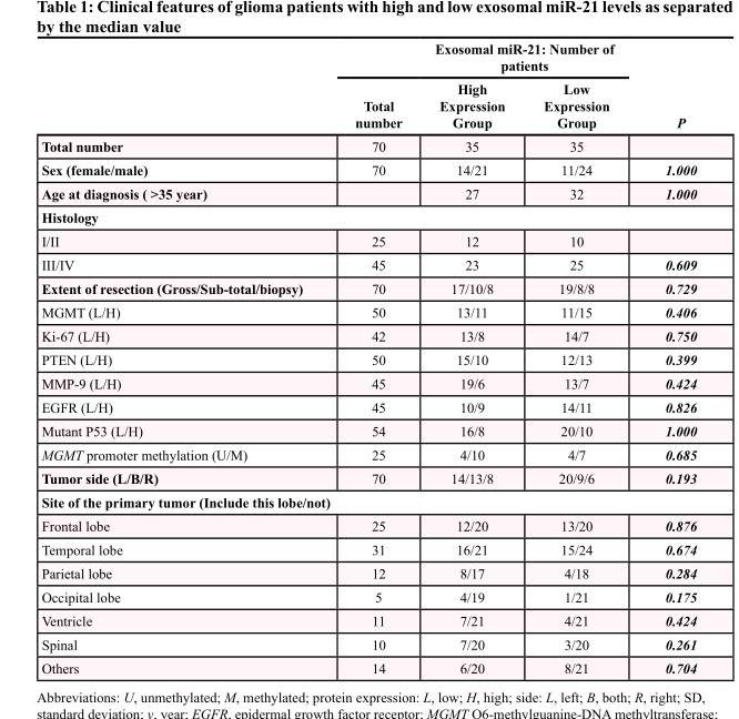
<table><thead><tr><td rowspan="2"></td><td colspan="3">Exosomal miR-21: Number of patients</td><td rowspan="2">P</td></tr><tr><td>Total number</td><td>High Expression Group</td><td>Low Expression Group</td></tr></thead><tbody><tr><td>Total number</td><td>70</td><td>35</td><td>35</td><td></td></tr><tr><td>Sex (female/male)</td><td>70</td><td>14/21</td><td>11/24</td><td>1.000</td></tr><tr><td>Age at diagnosis ( &gt;35 year)</td><td></td><td>27</td><td>32</td><td>1.000</td></tr><tr><td colspan="5">Histology</td></tr><tr><td>I/II</td><td>25</td><td>12</td><td>10</td><td></td></tr><tr><td>III/IV</td><td>45</td><td>23</td><td>25</td><td>0.609</td></tr><tr><td>Extent of resection (Gross/Sub-total/biopsy)</td><td>70</td><td>17/10/8</td><td>19/8/8</td><td>0.729</td></tr><tr><td>MGMT (L/H)</td><td>50</td><td>13/11</td><td>11/15</td><td>0.406</td></tr><tr><td>Ki-67 (L/H)</td><td>42</td><td>13/8</td><td>14/7</td><td>0.750</td></tr><tr><td>PTEN (L/H)</td><td>50</td><td>15/10</td><td>12/13</td><td>0.399</td></tr><tr><td>MMP-9 (L/H)</td><td>45</td><td>19/6</td><td>13/7</td><td>0.424</td></tr><tr><td>EGFR (L/H)</td><td>45</td><td>10/9</td><td>14/11</td><td>0.826</td></tr><tr><td>Mutant P53 (L/H)</td><td>54</td><td>16/8</td><td>20/10</td><td>1.000</td></tr><tr><td>MGMT promoter methylation (U/M)</td><td>25</td><td>4/10</td><td>4/7</td><td>0.685</td></tr><tr><td>Tumor side (L/B/R)</td><td>70</td><td>14/13/8</td><td>20/9/6</td><td>0.193</td></tr><tr><td colspan="5">Site of the primary tumor (Include this lobe/not)</td></tr><tr><td>Frontal lobe</td><td>25</td><td>12/20</td><td>13/20</td><td>0.876</td></tr><tr><td>Temporal lobe</td><td>31</td><td>16/21</td><td>15/24</td><td>0.674</td></tr><tr><td>Parietal lobe</td><td>12</td><td>8/17</td><td>4/18</td><td>0.284</td></tr><tr><td>Occipital lobe</td><td>5</td><td>4/19</td><td>1/21</td><td>0.175</td></tr><tr><td>Ventricle</td><td>11</td><td>7/21</td><td>4/21</td><td>0.424</td></tr><tr><td>Spinal</td><td>10</td><td>7/20</td><td>3/20</td><td>0.261</td></tr><tr><td>Others</td><td>14</td><td>6/20</td><td>8/21</td><td>0.704</td></tr></tbody></table>